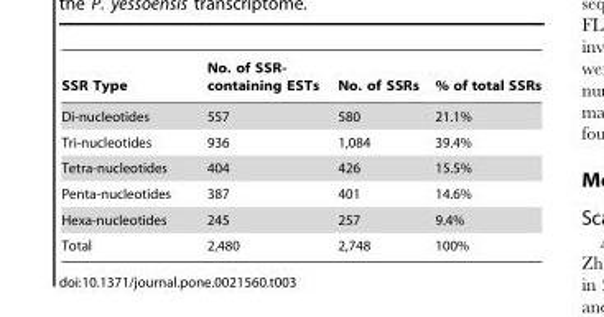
<table><thead><tr><td>SSR Type</td><td>No. of SSR- containing ESTs</td><td>No. of SSRs</td><td>% of total SSRs</td></tr></thead><tbody><tr><td>Di-nucleotides</td><td>557</td><td>580</td><td>21.1%</td></tr><tr><td>Tri-nucleotides</td><td>936</td><td>1,084</td><td>39.4%</td></tr><tr><td>Tetra-nucleotides</td><td>404</td><td>426</td><td>15.5%</td></tr><tr><td>Penta-nucleotides</td><td>387</td><td>401</td><td>14.6%</td></tr><tr><td>Hexa-nucleotides</td><td>245</td><td>257</td><td>9.4%</td></tr><tr><td>Total</td><td>2,480</td><td>2,748</td><td>100%</td></tr></tbody></table>